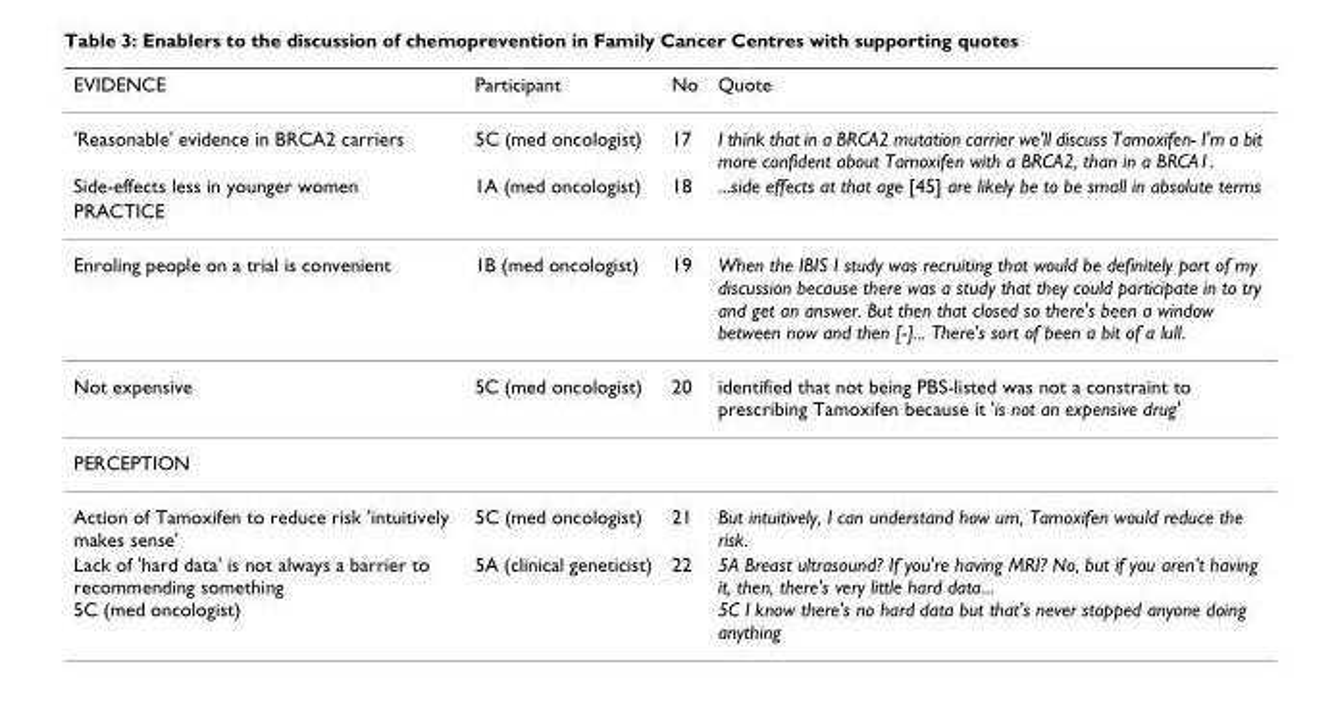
<table><thead><tr><td>EVIDENCE</td><td>Participant</td><td>No</td><td>Quote</td></tr></thead><tbody><tr><td>&#x27;Reasonable&#x27; evidence in BRCA2 carriers</td><td>5C (med oncologist)</td><td>17</td><td>I think that in a BRCA2 mutation carrier we&#x27;ll discuss Tamoxifen- I&#x27;m a bit more confident about Tamoxifen with a BRCA2, than in a BRCA1.</td></tr><tr><td>Side-effects less in younger women</td><td>1A (med oncologist)</td><td>18</td><td>...side effects at that age [45] are likely be to be small in absolute terms</td></tr><tr><td colspan="4">PRACTICE</td></tr><tr><td>Enroling people on a trial is convenient</td><td>1B (med oncologist)</td><td>19</td><td>When the IBIS I study was recruiting that would be definitely part of my discussion because there was a study that they could participate in to try and get an answer. But then that closed so there&#x27;s been a window between now and then [-]... There&#x27;s sort of been a bit of a lull.</td></tr><tr><td>Not expensive</td><td>5C (med oncologist)</td><td>20</td><td>identified that not being PBS-listed was not a constraint to prescribing Tamoxifen because it &#x27;is not an expensive drug&#x27;</td></tr><tr><td colspan="4">PERCEPTION</td></tr><tr><td>Action of Tamoxifen to reduce risk &#x27;intuitively makes sense&#x27;</td><td>5C (med oncologist)</td><td>21</td><td>But intuitively, I can understand how um, Tamoxifen would reduce the risk.</td></tr><tr><td>Lack of &#x27;hard data&#x27; is not always a barrier to recommending something 5C (med oncologist)</td><td>5A (clinical geneticist)</td><td>22</td><td>5A Breast ultrasound? If you&#x27;re having MRI? No, but if you aren&#x27;t having it, then, there&#x27;s very little hard data... 5C I know there&#x27;s no hard data but that&#x27;s never stopped anyone doing anything</td></tr></tbody></table>